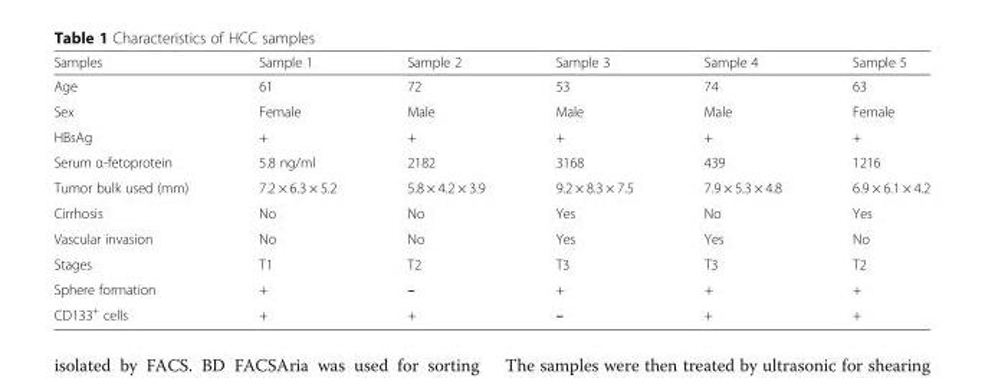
<table><thead><tr><td>Samples</td><td>Sample 1</td><td>Sample 2</td><td>Sample 3</td><td>Sample 4</td><td>Sample 5</td></tr></thead><tbody><tr><td>Age</td><td>61</td><td>72</td><td>53</td><td>74</td><td>63</td></tr><tr><td>Sex</td><td>Female</td><td>Male</td><td>Male</td><td>Male</td><td>Female</td></tr><tr><td>HBsAg</td><td>+</td><td>+</td><td>+</td><td>+</td><td>+</td></tr><tr><td>Serum α-fetoprotein</td><td>5.8 ng/ml</td><td>2182</td><td>3168</td><td>439</td><td>1216</td></tr><tr><td>Tumor bulk used (mm)</td><td>7.2 × 6.3 × 5.2</td><td>5.8 × 4.2 × 3.9</td><td>9.2 × 8.3 × 7.5</td><td>7.9 × 5.3 × 4.8</td><td>6.9 × 6.1 × 4.2</td></tr><tr><td>Cirrhosis</td><td>No</td><td>No</td><td>Yes</td><td>No</td><td>Yes</td></tr><tr><td>Vascular invasion</td><td>No</td><td>No</td><td>Yes</td><td>Yes</td><td>No</td></tr><tr><td>Stages</td><td>T1</td><td>T2</td><td>T3</td><td>T3</td><td>T2</td></tr><tr><td>Sphere formation</td><td>+</td><td>–</td><td>+</td><td>+</td><td>+</td></tr><tr><td>CD133+ cells</td><td>+</td><td>+</td><td>–</td><td>+</td><td>+</td></tr></tbody></table>